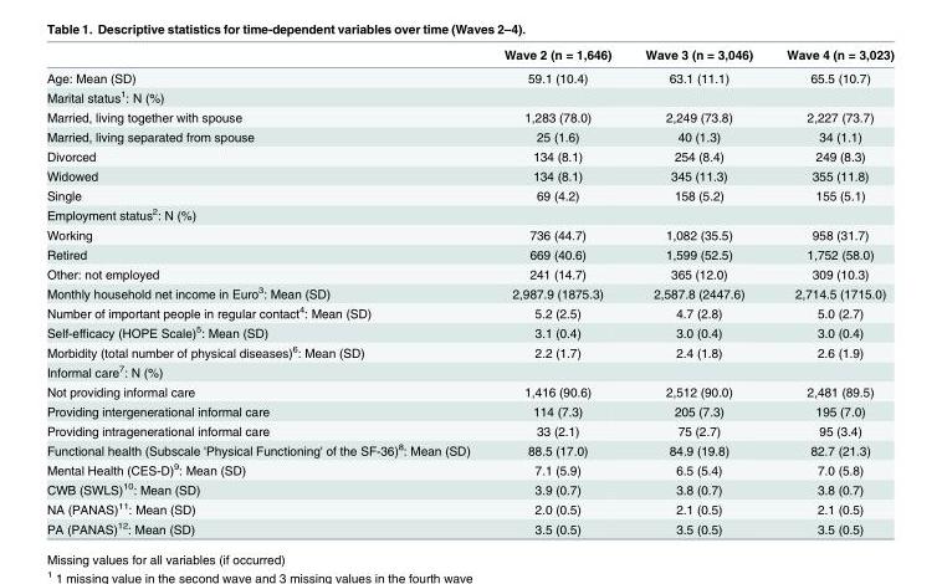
<table><thead><tr><td></td><td>Wave 2 (n = 1,646)</td><td>Wave 3 (n = 3,046)</td><td>Wave 4 (n = 3,023)</td></tr></thead><tbody><tr><td>Age: Mean (SD)</td><td>59.1 (10.4)</td><td>63.1 (11.1)</td><td>65.5 (10.7)</td></tr><tr><td colspan="4">Marital status<sup>1</sup>: N (%)</td></tr><tr><td>Married, living together with spouse</td><td>1,283 (78.0)</td><td>2,249 (73.8)</td><td>2,227 (73.7)</td></tr><tr><td>Married, living separated from spouse</td><td>25 (1.6)</td><td>40 (1.3)</td><td>34 (1.1)</td></tr><tr><td>Divorced</td><td>134 (8.1)</td><td>254 (8.4)</td><td>249 (8.3)</td></tr><tr><td>Widowed</td><td>134 (8.1)</td><td>345 (11.3)</td><td>355 (11.8)</td></tr><tr><td>Single</td><td>69 (4.2)</td><td>158 (5.2)</td><td>155 (5.1)</td></tr><tr><td colspan="4">Employment status<sup>2</sup>: N (%)</td></tr><tr><td>Working</td><td>736 (44.7)</td><td>1,082 (35.5)</td><td>958 (31.7)</td></tr><tr><td>Retired</td><td>669 (40.6)</td><td>1,599 (52.5)</td><td>1,752 (58.0)</td></tr><tr><td>Other: not employed</td><td>241 (14.7)</td><td>365 (12.0)</td><td>309 (10.3)</td></tr><tr><td>Monthly household net income in Euro<sup>3</sup>: Mean (SD)</td><td>2,987.9 (1875.3)</td><td>2,587.8 (2447.6)</td><td>2,714.5 (1715.0)</td></tr><tr><td>Number of important people in regular contact<sup>4</sup>: Mean (SD)</td><td>5.2 (2.5)</td><td>4.7 (2.8)</td><td>5.0 (2.7)</td></tr><tr><td>Self-efficacy (HOPE Scale)<sup>5</sup>: Mean (SD)</td><td>3.1 (0.4)</td><td>3.0 (0.4)</td><td>3.0 (0.4)</td></tr><tr><td>Morbidity (total number of physical diseases)<sup>6</sup>: Mean (SD)</td><td>2.2 (1.7)</td><td>2.4 (1.8)</td><td>2.6 (1.9)</td></tr><tr><td colspan="4">Informal care<sup>7</sup>: N (%)</td></tr><tr><td>Not providing informal care</td><td>1,416 (90.6)</td><td>2,512 (90.0)</td><td>2,481 (89.5)</td></tr><tr><td>Providing intergenerational informal care</td><td>114 (7.3)</td><td>205 (7.3)</td><td>195 (7.0)</td></tr><tr><td>Providing intragenerational informal care</td><td>33 (2.1)</td><td>75 (2.7)</td><td>95 (3.4)</td></tr><tr><td>Functional health (Subscale &#x27;Physical Functioning&#x27; of the SF-36)<sup>8</sup>: Mean (SD)</td><td>88.5 (17.0)</td><td>84.9 (19.8)</td><td>82.7 (21.3)</td></tr><tr><td>Mental Health (CES-D)<sup>9</sup>: Mean (SD)</td><td>7.1 (5.9)</td><td>6.5 (5.4)</td><td>7.0 (5.8)</td></tr><tr><td>CWB (SWLS)<sup>10</sup>: Mean (SD)</td><td>3.9 (0.7)</td><td>3.8 (0.7)</td><td>3.8 (0.7)</td></tr><tr><td>NA (PANAS)<sup>11</sup>: Mean (SD)</td><td>2.0 (0.5)</td><td>2.1 (0.5)</td><td>2.1 (0.5)</td></tr><tr><td>PA (PANAS)<sup>12</sup>: Mean (SD)</td><td>3.5 (0.5)</td><td>3.5 (0.5)</td><td>3.5 (0.5)</td></tr></tbody></table>